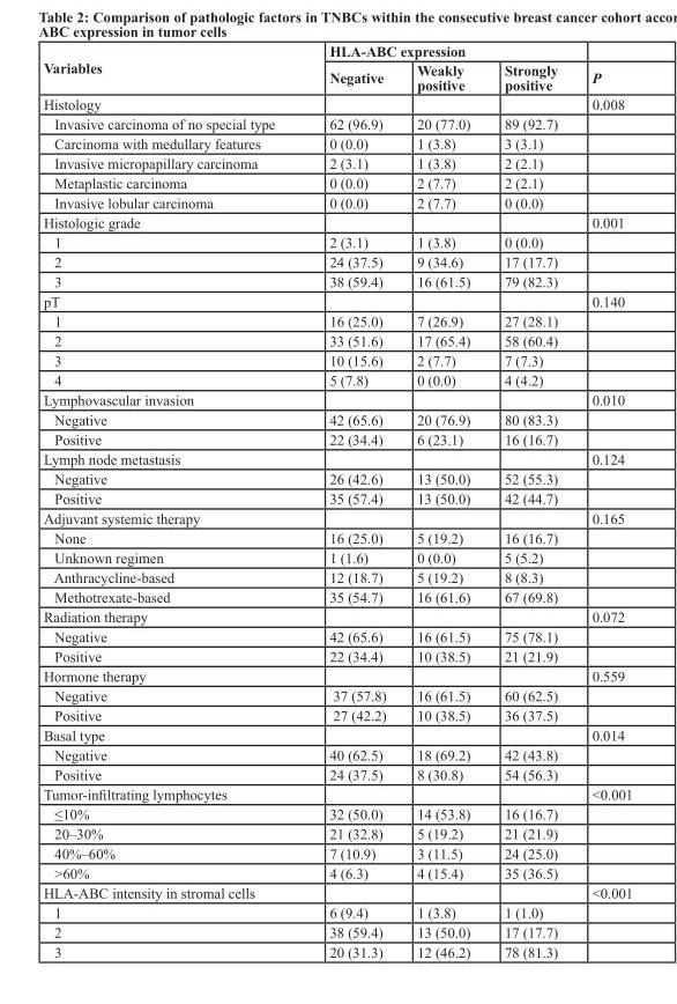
<table><thead><tr><td rowspan="2">Variables</td><td colspan="3">HLA-ABC expression</td><td rowspan="2">P</td></tr><tr><td>Negative</td><td>Weakly positive</td><td>Strongly positive</td></tr></thead><tbody><tr><td>Histology</td><td></td><td></td><td></td><td>0.008</td></tr><tr><td>Invasive carcinoma of no special type</td><td>62 (96.9)</td><td>20 (77.0)</td><td>89 (92.7)</td><td></td></tr><tr><td>Carcinoma with medullary features</td><td>0 (0.0)</td><td>1 (3.8)</td><td>3 (3.1)</td><td></td></tr><tr><td>Invasive micropapillary carcinoma</td><td>2 (3.1)</td><td>1 (3.8)</td><td>2 (2.1)</td><td></td></tr><tr><td>Metaplastic carcinoma</td><td>0 (0.0)</td><td>2 (7.7)</td><td>2 (2.1)</td><td></td></tr><tr><td>Invasive lobular carcinoma</td><td>0 (0.0)</td><td>2 (7.7)</td><td>0 (0.0)</td><td></td></tr><tr><td>Histologic grade</td><td></td><td></td><td></td><td>0.001</td></tr><tr><td>1</td><td>2 (3.1)</td><td>1 (3.8)</td><td>0 (0.0)</td><td></td></tr><tr><td>2</td><td>24 (37.5)</td><td>9 (34.6)</td><td>17 (17.7)</td><td></td></tr><tr><td>3</td><td>38 (59.4)</td><td>16 (61.5)</td><td>79 (82.3)</td><td></td></tr><tr><td>pT</td><td></td><td></td><td></td><td>0.140</td></tr><tr><td>1</td><td>16 (25.0)</td><td>7 (26.9)</td><td>27 (28.1)</td><td></td></tr><tr><td>2</td><td>33 (51.6)</td><td>17 (65.4)</td><td>58 (60.4)</td><td></td></tr><tr><td>3</td><td>10 (15.6)</td><td>2 (7.7)</td><td>7 (7.3)</td><td></td></tr><tr><td>4</td><td>5 (7.8)</td><td>0 (0.0)</td><td>4 (4.2)</td><td></td></tr><tr><td>Lymphovascular invasion</td><td></td><td></td><td></td><td>0.010</td></tr><tr><td>Negative</td><td>42 (65.6)</td><td>20 (76.9)</td><td>80 (83.3)</td><td></td></tr><tr><td>Positive</td><td>22 (34.4)</td><td>6 (23.1)</td><td>16 (16.7)</td><td></td></tr><tr><td>Lymph node metastasis</td><td></td><td></td><td></td><td>0.124</td></tr><tr><td>Negative</td><td>26 (42.6)</td><td>13 (50.0)</td><td>52 (55.3)</td><td></td></tr><tr><td>Positive</td><td>35 (57.4)</td><td>13 (50.0)</td><td>42 (44.7)</td><td></td></tr><tr><td>Adjuvant systemic therapy</td><td></td><td></td><td></td><td>0.165</td></tr><tr><td>None</td><td>16 (25.0)</td><td>5 (19.2)</td><td>16 (16.7)</td><td></td></tr><tr><td>Unknown regimen</td><td>1 (1.6)</td><td>0 (0.0)</td><td>5 (5.2)</td><td></td></tr><tr><td>Anthracycline-based</td><td>12 (18.7)</td><td>5 (19.2)</td><td>8 (8.3)</td><td></td></tr><tr><td>Methotrexate-based</td><td>35 (54.7)</td><td>16 (61.6)</td><td>67 (69.8)</td><td></td></tr><tr><td>Radiation therapy</td><td></td><td></td><td></td><td>0.072</td></tr><tr><td>Negative</td><td>42 (65.6)</td><td>16 (61.5)</td><td>75 (78.1)</td><td></td></tr><tr><td>Positive</td><td>22 (34.4)</td><td>10 (38.5)</td><td>21 (21.9)</td><td></td></tr><tr><td>Hormone therapy</td><td></td><td></td><td></td><td>0.559</td></tr><tr><td>Negative</td><td>37 (57.8)</td><td>16 (61.5)</td><td>60 (62.5)</td><td></td></tr><tr><td>Positive</td><td>27 (42.2)</td><td>10 (38.5)</td><td>36 (37.5)</td><td></td></tr><tr><td>Basal type</td><td></td><td></td><td></td><td>0.014</td></tr><tr><td>Negative</td><td>40 (62.5)</td><td>18 (69.2)</td><td>42 (43.8)</td><td></td></tr><tr><td>Positive</td><td>24 (37.5)</td><td>8 (30.8)</td><td>54 (56.3)</td><td></td></tr><tr><td>Tumor-infiltrating lymphocytes</td><td></td><td></td><td></td><td>&lt;0.001</td></tr><tr><td>≤10%</td><td>32 (50.0)</td><td>14 (53.8)</td><td>16 (16.7)</td><td></td></tr><tr><td>20–30%</td><td>21 (32.8)</td><td>5 (19.2)</td><td>21 (21.9)</td><td></td></tr><tr><td>40%–60%</td><td>7 (10.9)</td><td>3 (11.5)</td><td>24 (25.0)</td><td></td></tr><tr><td>&gt;60%</td><td>4 (6.3)</td><td>4 (15.4)</td><td>35 (36.5)</td><td></td></tr><tr><td>HLA-ABC intensity in stromal cells</td><td></td><td></td><td></td><td>&lt;0.001</td></tr><tr><td>1</td><td>6 (9.4)</td><td>1 (3.8)</td><td>1 (1.0)</td><td></td></tr><tr><td>2</td><td>38 (59.4)</td><td>13 (50.0)</td><td>17 (17.7)</td><td></td></tr><tr><td>3</td><td>20 (31.3)</td><td>12 (46.2)</td><td>78 (81.3)</td><td></td></tr></tbody></table>